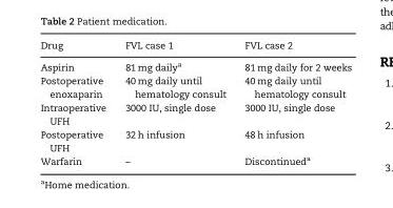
<table><thead><tr><td>Drug</td><td>FVL case 1</td><td>FVL case 2</td></tr></thead><tbody><tr><td>Aspirin</td><td>81 mg daily<sup>a</sup></td><td>81 mg daily for 2 weeks</td></tr><tr><td>Postoperative enoxaparin</td><td>40 mg daily until hematology consult</td><td>40 mg daily until hematology consult</td></tr><tr><td>Intraoperative UFH</td><td>3000 IU, single dose</td><td>3000 IU, single dose</td></tr><tr><td>Postoperative UFH</td><td>32 h infusion</td><td>48 h infusion</td></tr><tr><td>Warfarin</td><td>–</td><td>Discontinued<sup>a</sup></td></tr></tbody></table>